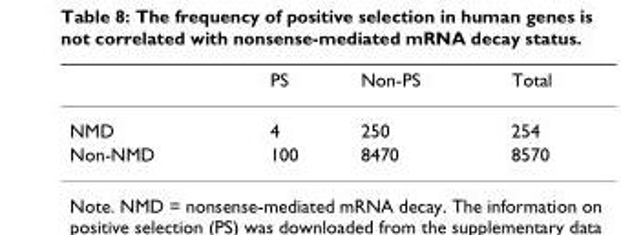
<table><thead><tr><td></td><td>PS</td><td>Non-PS</td><td>Total</td></tr></thead><tbody><tr><td>NMD</td><td>4</td><td>250</td><td>254</td></tr><tr><td>Non-NMD</td><td>100</td><td>8470</td><td>8570</td></tr></tbody></table>